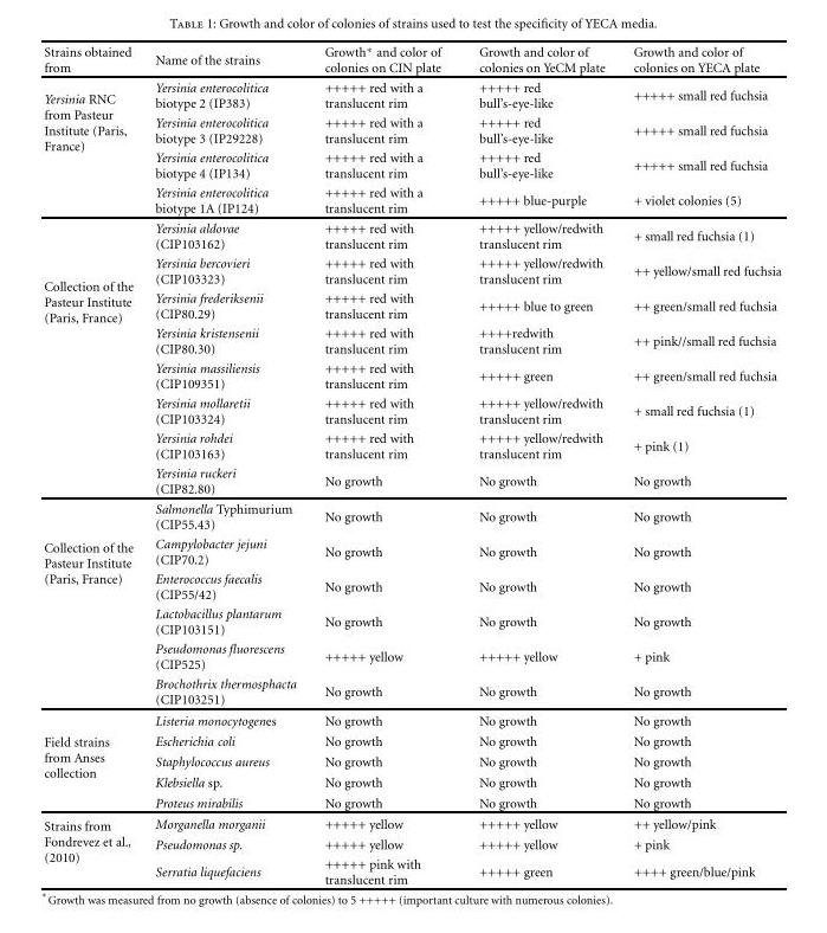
<table><thead><tr><td>Strains obtained from</td><td>Name of the strains</td><td>Growth∗ and color of colonies on CIN plate</td><td>Growth and color of colonies on YeCM plate</td><td>Growth and color of colonies on YECA plate</td></tr></thead><tbody><tr><td rowspan="4">Yersinia RNC from Pasteur Institute (Paris, France)</td><td>Yersinia enterocolitica biotype 2 (IP383)</td><td>+++++ red with a translucent rim</td><td>+++++ red bull’s-eye-like</td><td>+++++ small red fuchsia</td></tr><tr><td>Yersinia enterocolitica biotype 3 (IP29228)</td><td>+++++ red with a translucent rim</td><td>+++++ red bull’s-eye-like</td><td>+++++ small red fuchsia</td></tr><tr><td>Yersinia enterocolitica biotype 4 (IP134)</td><td>+++++ red with a translucent rim</td><td>+++++ red bull’s-eye-like</td><td>+++++ small red fuchsia</td></tr><tr><td>Yersinia enterocolitica biotype 1A (IP124)</td><td>+++++ red with a translucent rim</td><td>+++++ blue-purple</td><td>+ violet colonies (5)</td></tr><tr><td rowspan="8">Collection of the Pasteur Institute (Paris, France)</td><td>Yersinia aldovae (CIP103162)</td><td>+++++ red with translucent rim</td><td>+++++ yellow/redwith translucent rim</td><td>+ small red fuchsia (1)</td></tr><tr><td>Yersinia bercovieri (CIP103323)</td><td>+++++ red with translucent rim</td><td>+++++ yellow/redwith translucent rim</td><td>++ yellow/small red fuchsia</td></tr><tr><td>Yersinia frederiksenii (CIP80.29)</td><td>+++++ red with translucent rim</td><td>+++++ blue to green</td><td>++ green/small red fuchsia</td></tr><tr><td>Yersinia kristensenii (CIP80.30)</td><td>+++++ red with translucent rim</td><td>++++redwith translucent rim</td><td>++ pink//small red fuchsia</td></tr><tr><td>Yersinia massiliensis (CIP109351)</td><td>+++++ red with translucent rim</td><td>+++++ green</td><td>++ green/small red fuchsia</td></tr><tr><td>Yersinia mollaretii (CIP103324)</td><td>+++++ red with translucent rim</td><td>+++++ yellow/redwith translucent rim</td><td>+ small red fuchsia (1)</td></tr><tr><td>Yersinia rohdei (CIP103163)</td><td>+++++ red with translucent rim</td><td>+++++ yellow/redwith translucent rim</td><td>+ pink (1)</td></tr><tr><td>Yersinia ruckeri (CIP82.80)</td><td>No growth</td><td>No growth</td><td>No growth</td></tr><tr><td rowspan="6">Collection of the Pasteur Institute (Paris, France)</td><td>Salmonella Typhimurium (CIP55.43)</td><td>No growth</td><td>No growth</td><td>No growth</td></tr><tr><td>Campylobacter jejuni (CIP70.2)</td><td>No growth</td><td>No growth</td><td>No growth</td></tr><tr><td>Enterococcus faecalis (CIP55/42)</td><td>No growth</td><td>No growth</td><td>No growth</td></tr><tr><td>Lactobacillus plantarum (CIP103151)</td><td>No growth</td><td>No growth</td><td>No growth</td></tr><tr><td>Pseudomonas fluorescens (CIP525)</td><td>+++++ yellow</td><td>+++++ yellow</td><td>+ pink</td></tr><tr><td>Brochothrix thermosphacta (CIP103251)</td><td>No growth</td><td>No growth</td><td>No growth</td></tr><tr><td rowspan="5">Field strains from Anses collection</td><td>Listeria monocytogenes</td><td>No growth</td><td>No growth</td><td>No growth</td></tr><tr><td>Escherichia coli</td><td>No growth</td><td>No growth</td><td>No growth</td></tr><tr><td>Staphylococcus aureus</td><td>No growth</td><td>No growth</td><td>No growth</td></tr><tr><td>Klebsiella sp.</td><td>No growth</td><td>No growth</td><td>No growth</td></tr><tr><td>Proteus mirabilis</td><td>No growth</td><td>No growth</td><td>No growth</td></tr><tr><td rowspan="3">Strains from Fondrevez et al., (2010)</td><td>Morganella morganii</td><td>+++++ yellow</td><td>+++++ yellow</td><td>++ yellow/pink</td></tr><tr><td>Pseudomonas sp.</td><td>+++++ yellow</td><td>+++++ yellow</td><td>+ pink</td></tr><tr><td>Serratia liquefaciens</td><td>+++++ pink with translucent rim</td><td>+++++ green</td><td>++++ green/blue/pink</td></tr></tbody></table>